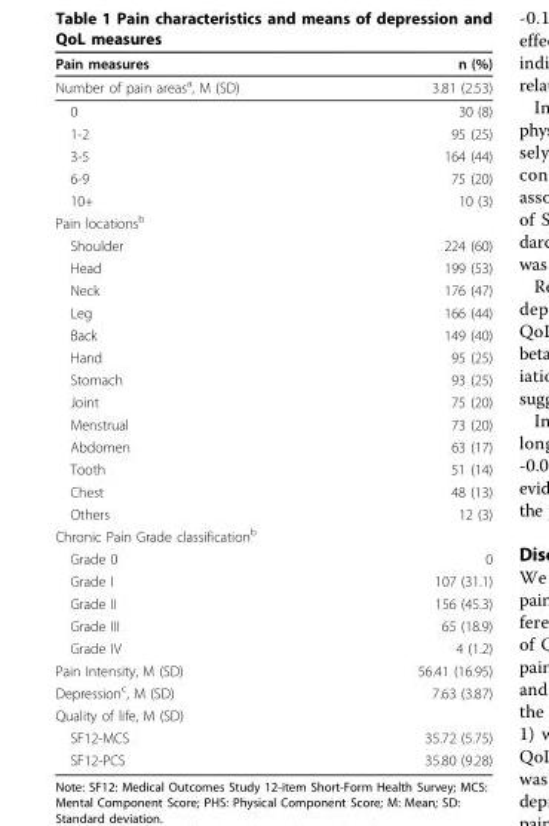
<table><thead><tr><td>Pain measures</td><td>n (%)</td></tr></thead><tbody><tr><td>Number of pain areas<sup>a</sup>, M (SD)</td><td>3.81 (2.53)</td></tr><tr><td>0</td><td>30 (8)</td></tr><tr><td>1-2</td><td>95 (25)</td></tr><tr><td>3-5</td><td>164 (44)</td></tr><tr><td>6-9</td><td>75 (20)</td></tr><tr><td>10+</td><td>10 (3)</td></tr><tr><td colspan="2">Pain locations<sup>b</sup></td></tr><tr><td>Shoulder</td><td>224 (60)</td></tr><tr><td>Head</td><td>199 (53)</td></tr><tr><td>Neck</td><td>176 (47)</td></tr><tr><td>Leg</td><td>166 (44)</td></tr><tr><td>Back</td><td>149 (40)</td></tr><tr><td>Hand</td><td>95 (25)</td></tr><tr><td>Stomach</td><td>93 (25)</td></tr><tr><td>Joint</td><td>75 (20)</td></tr><tr><td>Menstrual</td><td>73 (20)</td></tr><tr><td>Abdomen</td><td>63 (17)</td></tr><tr><td>Tooth</td><td>51 (14)</td></tr><tr><td>Chest</td><td>48 (13)</td></tr><tr><td>Others</td><td>12 (3)</td></tr><tr><td colspan="2">Chronic Pain Grade classification<sup>b</sup></td></tr><tr><td>Grade 0</td><td>0</td></tr><tr><td>Grade I</td><td>107 (31.1)</td></tr><tr><td>Grade II</td><td>156 (45.3)</td></tr><tr><td>Grade III</td><td>65 (18.9)</td></tr><tr><td>Grade IV</td><td>4 (1.2)</td></tr><tr><td>Pain Intensity, M (SD)</td><td>56.41 (16.95)</td></tr><tr><td>Depression<sup>c</sup>, M (SD)</td><td>7.63 (3.87)</td></tr><tr><td colspan="2">Quality of life, M (SD)</td></tr><tr><td>SF12-MCS</td><td>35.72 (5.75)</td></tr><tr><td>SF12-PCS</td><td>35.80 (9.28)</td></tr></tbody></table>